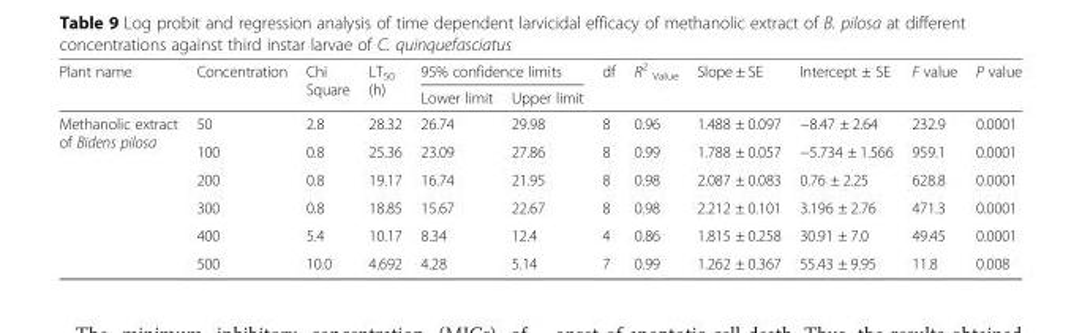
<table><thead><tr><td rowspan="2">Plant name</td><td rowspan="2">Concentration</td><td rowspan="2">Chi Square</td><td rowspan="2">LT<sub>50</sub> (h)</td><td colspan="2">95% confidence limits</td><td rowspan="2">df</td><td rowspan="2">R<sup>2</sup> <sub>Value</sub></td><td rowspan="2">Slope ± SE</td><td rowspan="2">Intercept ± SE</td><td rowspan="2">F value</td><td rowspan="2">P value</td></tr><tr><td>Lower limit</td><td>Upper limit</td></tr></thead><tbody><tr><td rowspan="6">Methanolic extract of Bidens pilosa</td><td>50</td><td>2.8</td><td>28.32</td><td>26.74</td><td>29.98</td><td>8</td><td>0.96</td><td>1.488 ± 0.097</td><td>−8.47 ± 2.64</td><td>232.9</td><td>0.0001</td></tr><tr><td>100</td><td>0.8</td><td>25.36</td><td>23.09</td><td>27.86</td><td>8</td><td>0.99</td><td>1.788 ± 0.057</td><td>−5.734 ± 1.566</td><td>959.1</td><td>0.0001</td></tr><tr><td>200</td><td>0.8</td><td>19.17</td><td>16.74</td><td>21.95</td><td>8</td><td>0.98</td><td>2.087 ± 0.083</td><td>0.76 ± 2.25</td><td>628.8</td><td>0.0001</td></tr><tr><td>300</td><td>0.8</td><td>18.85</td><td>15.67</td><td>22.67</td><td>8</td><td>0.98</td><td>2.212 ± 0.101</td><td>3.196 ± 2.76</td><td>471.3</td><td>0.0001</td></tr><tr><td>400</td><td>5.4</td><td>10.17</td><td>8.34</td><td>12.4</td><td>4</td><td>0.86</td><td>1.815 ± 0.258</td><td>30.91 ± 7.0</td><td>49.45</td><td>0.0001</td></tr><tr><td>500</td><td>10.0</td><td>4.692</td><td>4.28</td><td>5.14</td><td>7</td><td>0.99</td><td>1.262 ± 0.367</td><td>55.43 ± 9.95</td><td>11.8</td><td>0.008</td></tr></tbody></table>